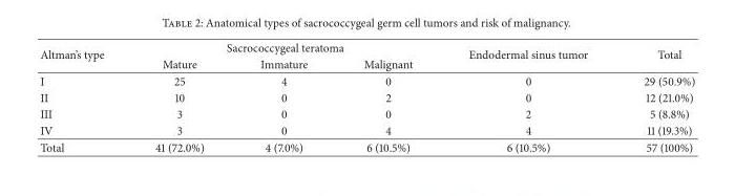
<table><thead><tr><td rowspan="2">Altman’s type</td><td colspan="3">Sacrococcygeal teratoma</td><td rowspan="2">Endodermal sinus tumor</td><td rowspan="2">Total</td></tr><tr><td>Mature</td><td>Immature</td><td>Malignant</td></tr></thead><tbody><tr><td>I</td><td>25</td><td>4</td><td>0</td><td>0</td><td>29 (50.9%)</td></tr><tr><td>II</td><td>10</td><td>0</td><td>2</td><td>0</td><td>12 (21.0%)</td></tr><tr><td>III</td><td>3</td><td>0</td><td>0</td><td>2</td><td>5 (8.8%)</td></tr><tr><td>IV</td><td>3</td><td>0</td><td>4</td><td>4</td><td>11 (19.3%)</td></tr><tr><td>Total</td><td>41 (72.0%)</td><td>4 (7.0%)</td><td>6 (10.5%)</td><td>6 (10.5%)</td><td>57 (100%)</td></tr></tbody></table>